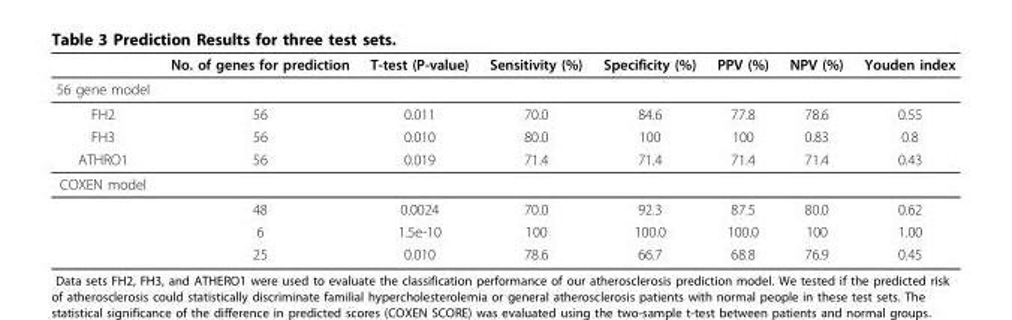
<table><thead><tr><td></td><td>No. of genes for prediction</td><td>T-test (P-value)</td><td>Sensitivity (%)</td><td>Specificity (%)</td><td>PPV (%)</td><td>NPV (%)</td><td>Youden index</td></tr></thead><tbody><tr><td colspan="8">56 gene model</td></tr><tr><td>FH2</td><td>56</td><td>0.011</td><td>70.0</td><td>84.6</td><td>77.8</td><td>78.6</td><td>0.55</td></tr><tr><td>FH3</td><td>56</td><td>0.010</td><td>80.0</td><td>100</td><td>100</td><td>0.83</td><td>0.8</td></tr><tr><td>ATHRO1</td><td>56</td><td>0.019</td><td>71.4</td><td>71.4</td><td>71.4</td><td>71.4</td><td>0.43</td></tr><tr><td colspan="8">COXEN model</td></tr><tr><td></td><td>48</td><td>0.0024</td><td>70.0</td><td>92.3</td><td>87.5</td><td>80.0</td><td>0.62</td></tr><tr><td></td><td>6</td><td>1.5e-10</td><td>100</td><td>100.0</td><td>100.0</td><td>100</td><td>1.00</td></tr><tr><td></td><td>25</td><td>0.010</td><td>78.6</td><td>66.7</td><td>68.8</td><td>76.9</td><td>0.45</td></tr></tbody></table>